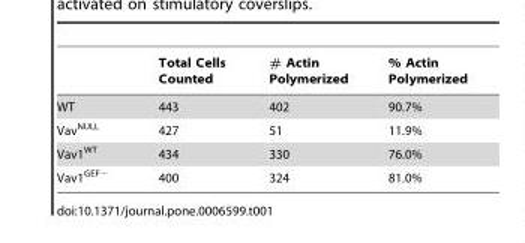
<table><thead><tr><td></td><td>Total Cells Counted</td><td># Actin Polymerized</td><td>% Actin Polymerized</td></tr></thead><tbody><tr><td>WT</td><td>443</td><td>402</td><td>90.7%</td></tr><tr><td>Vav<sup>NULL</sup></td><td>427</td><td>51</td><td>11.9%</td></tr><tr><td>Vav1<sup>WT</sup></td><td>434</td><td>330</td><td>76.0%</td></tr><tr><td>Vav1<sup>GEF−</sup></td><td>400</td><td>324</td><td>81.0%</td></tr></tbody></table>